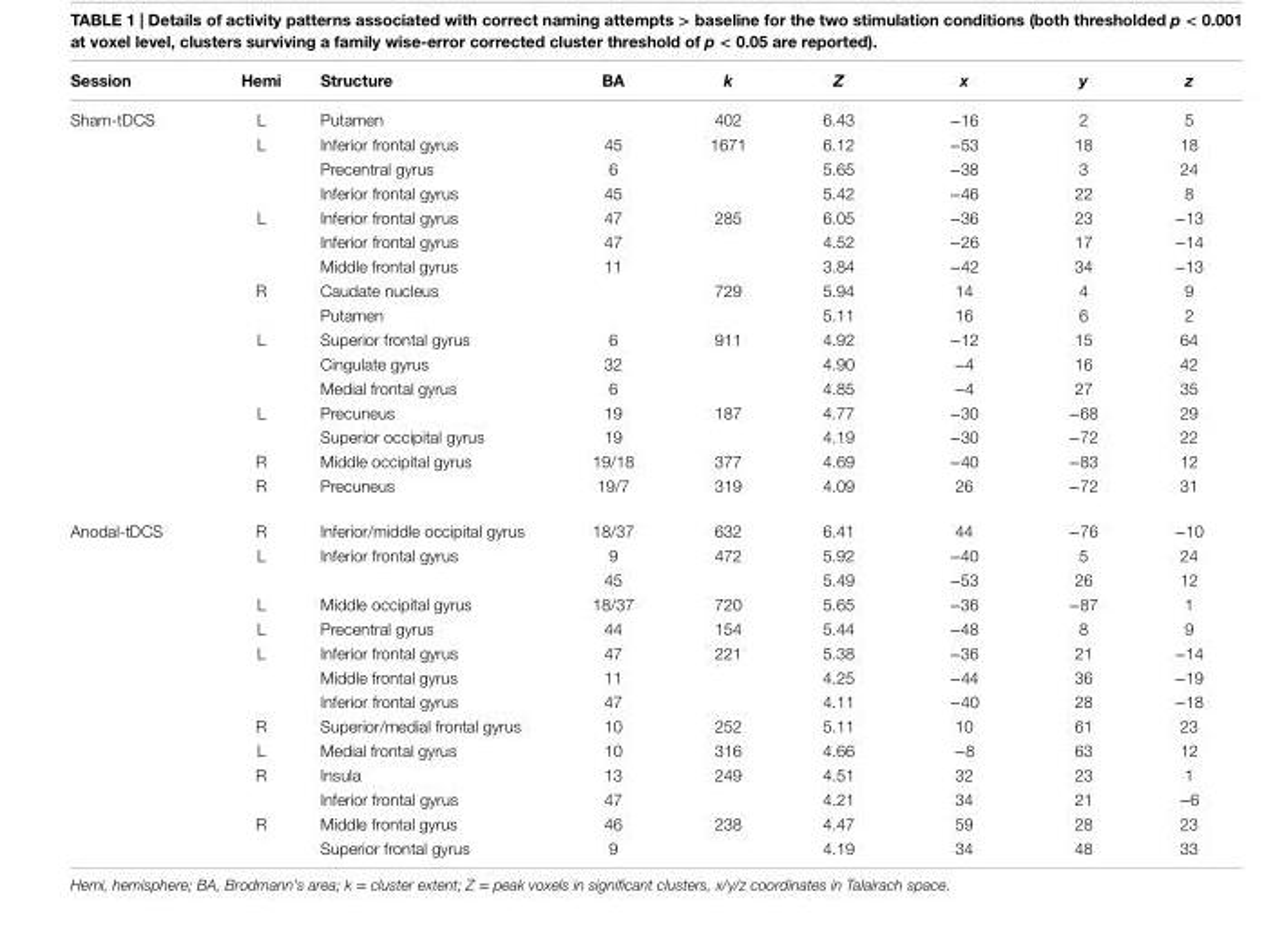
<table><thead><tr><td>session</td><td>hemi</td><td>structure</td><td>Ba</td><td>k</td><td>Z</td><td>x</td><td>y</td><td>z</td></tr></thead><tbody><tr><td rowspan="16">Sham-tDCS</td><td>L</td><td>Putamen</td><td></td><td>402</td><td>6.43</td><td>−16</td><td>2</td><td>5</td></tr><tr><td>L</td><td>Inferior frontal gyrus</td><td>45</td><td>1671</td><td>6.12</td><td>−53</td><td>18</td><td>18</td></tr><tr><td></td><td>Precentral gyrus</td><td>6</td><td></td><td>5.65</td><td>−38</td><td>3</td><td>24</td></tr><tr><td></td><td>Inferior frontal gyrus</td><td>45</td><td></td><td>5.42</td><td>−46</td><td>22</td><td>8</td></tr><tr><td>L</td><td>Inferior frontal gyrus</td><td>47</td><td>285</td><td>6.05</td><td>−36</td><td>23</td><td>−13</td></tr><tr><td></td><td>Inferior frontal gyrus</td><td>47</td><td></td><td>4.52</td><td>−26</td><td>17</td><td>−14</td></tr><tr><td></td><td>Middle frontal gyrus</td><td>11</td><td></td><td>3.84</td><td>−42</td><td>34</td><td>−13</td></tr><tr><td>R</td><td>Caudate nucleus</td><td></td><td>729</td><td>5.94</td><td>14</td><td>4</td><td>9</td></tr><tr><td></td><td>Putamen</td><td></td><td></td><td>5.11</td><td>16</td><td>6</td><td>2</td></tr><tr><td>L</td><td>Superior frontal gyrus</td><td>6</td><td>911</td><td>4.92</td><td>−12</td><td>15</td><td>64</td></tr><tr><td></td><td>Cingulate gyrus</td><td>32</td><td></td><td>4.90</td><td>−4</td><td>16</td><td>42</td></tr><tr><td></td><td>Medial frontal gyrus</td><td>6</td><td></td><td>4.85</td><td>−4</td><td>27</td><td>35</td></tr><tr><td>L</td><td>Precuneus</td><td>19</td><td>187</td><td>4.77</td><td>−30</td><td>−68</td><td>29</td></tr><tr><td></td><td>Superior occipital gyrus</td><td>19</td><td></td><td>4.19</td><td>−30</td><td>−72</td><td>22</td></tr><tr><td>R</td><td>Middle occipital gyrus</td><td>19/18</td><td>377</td><td>4.69</td><td>−40</td><td>−83</td><td>12</td></tr><tr><td>R</td><td>Precuneus</td><td>19/7</td><td>319</td><td>4.09</td><td>26</td><td>−72</td><td>31</td></tr><tr><td rowspan="14">Anodal-tDCS</td><td>R</td><td>Inferior/middle occipital gyrus</td><td>18/37</td><td>632</td><td>6.41</td><td>44</td><td>−76</td><td>−10</td></tr><tr><td>L</td><td>Inferior frontal gyrus</td><td>9</td><td>472</td><td>5.92</td><td>−40</td><td>5</td><td>24</td></tr><tr><td></td><td></td><td>45</td><td></td><td>5.49</td><td>−53</td><td>26</td><td>12</td></tr><tr><td>L</td><td>Middle occipital gyrus</td><td>18/37</td><td>720</td><td>5.65</td><td>−36</td><td>−87</td><td>1</td></tr><tr><td>L</td><td>Precentral gyrus</td><td>44</td><td>154</td><td>5.44</td><td>−48</td><td>8</td><td>9</td></tr><tr><td>L</td><td>Inferior frontal gyrus</td><td>47</td><td>221</td><td>5.38</td><td>−36</td><td>21</td><td>−14</td></tr><tr><td></td><td>Middle frontal gyrus</td><td>11</td><td></td><td>4.25</td><td>−44</td><td>36</td><td>−19</td></tr><tr><td></td><td>Inferior frontal gyrus</td><td>47</td><td></td><td>4.11</td><td>−40</td><td>28</td><td>−18</td></tr><tr><td>R</td><td>Superior/medial frontal gyrus</td><td>10</td><td>252</td><td>5.11</td><td>10</td><td>61</td><td>23</td></tr><tr><td>L</td><td>Medial frontal gyrus</td><td>10</td><td>316</td><td>4.66</td><td>−8</td><td>63</td><td>12</td></tr><tr><td>R</td><td>Insula</td><td>13</td><td>249</td><td>4.51</td><td>32</td><td>23</td><td>1</td></tr><tr><td></td><td>Inferior frontal gyrus</td><td>47</td><td></td><td>4.21</td><td>34</td><td>21</td><td>−6</td></tr><tr><td>R</td><td>Middle frontal gyrus</td><td>46</td><td>238</td><td>4.47</td><td>59</td><td>28</td><td>23</td></tr><tr><td></td><td>Superior frontal gyrus</td><td>9</td><td></td><td>4.19</td><td>34</td><td>48</td><td>33</td></tr></tbody></table>